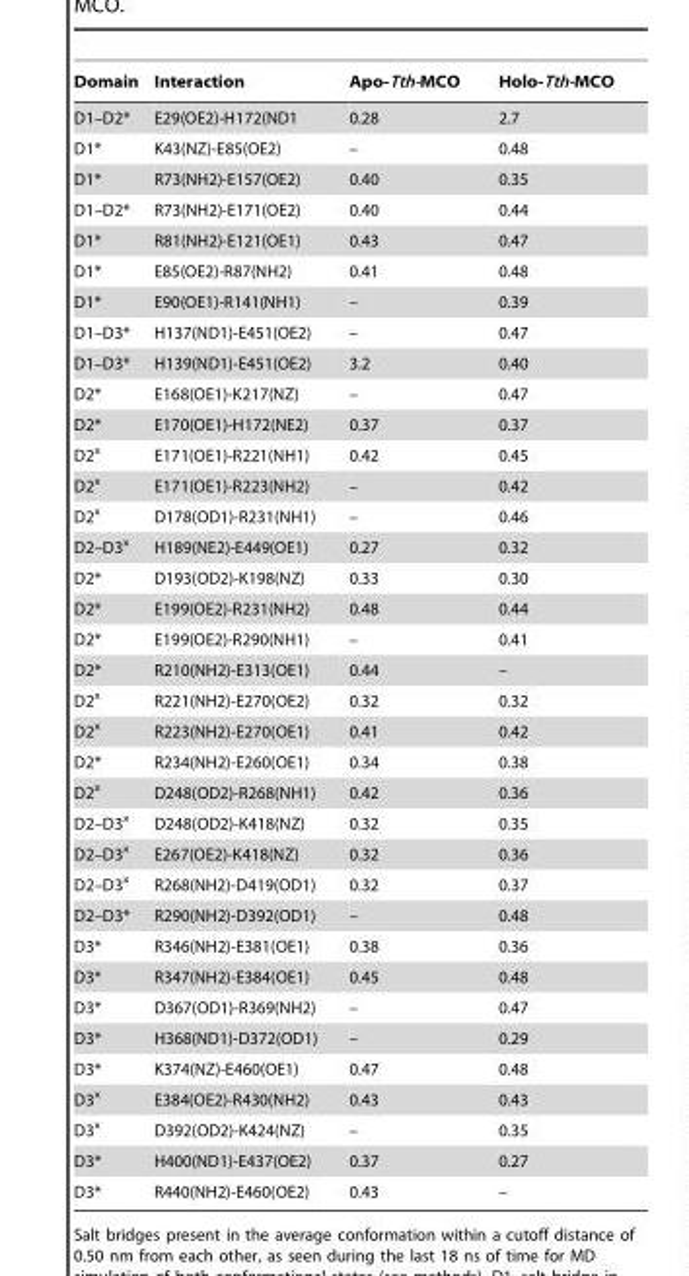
<table><thead><tr><td>Domain</td><td>Interaction</td><td>Apo-Tth-MCO</td><td>Holo-Tth-MCO</td></tr></thead><tbody><tr><td>D1–D2*</td><td>E29(OE2)-H172(ND1</td><td>0.28</td><td>2.7</td></tr><tr><td>D1*</td><td>K43(NZ)-E85(OE2)</td><td>–</td><td>0.48</td></tr><tr><td>D1*</td><td>R73(NH2)-E157(OE2)</td><td>0.40</td><td>0.35</td></tr><tr><td>D1–D2*</td><td>R73(NH2)-E171(OE2)</td><td>0.40</td><td>0.44</td></tr><tr><td>D1*</td><td>R81(NH2)-E121(OE1)</td><td>0.43</td><td>0.47</td></tr><tr><td>D1*</td><td>E85(OE2)-R87(NH2)</td><td>0.41</td><td>0.48</td></tr><tr><td>D1*</td><td>E90(OE1)-R141(NH1)</td><td>–</td><td>0.39</td></tr><tr><td>D1–D3*</td><td>H137(ND1)-E451(OE2)</td><td>–</td><td>0.47</td></tr><tr><td>D1–D3*</td><td>H139(ND1)-E451(OE2)</td><td>3.2</td><td>0.40</td></tr><tr><td>D2*</td><td>E168(OE1)-K217(NZ)</td><td>–</td><td>0.47</td></tr><tr><td>D2*</td><td>E170(OE1)-H172(NE2)</td><td>0.37</td><td>0.37</td></tr><tr><td>D2<sup>x</sup></td><td>E171(OE1)-R221(NH1)</td><td>0.42</td><td>0.45</td></tr><tr><td>D2<sup>x</sup></td><td>E171(OE1)-R223(NH2)</td><td>–</td><td>0.42</td></tr><tr><td>D2<sup>x</sup></td><td>D178(OD1)-R231(NH1)</td><td>–</td><td>0.46</td></tr><tr><td>D2–D3<sup>x</sup></td><td>H189(NE2)-E449(OE1)</td><td>0.27</td><td>0.32</td></tr><tr><td>D2*</td><td>D193(OD2)-K198(NZ)</td><td>0.33</td><td>0.30</td></tr><tr><td>D2*</td><td>E199(OE2)-R231(NH2)</td><td>0.48</td><td>0.44</td></tr><tr><td>D2*</td><td>E199(OE2)-R290(NH1)</td><td>–</td><td>0.41</td></tr><tr><td>D2*</td><td>R210(NH2)-E313(OE1)</td><td>0.44</td><td>–</td></tr><tr><td>D2<sup>x</sup></td><td>R221(NH2)-E270(OE2)</td><td>0.32</td><td>0.32</td></tr><tr><td>D2<sup>x</sup></td><td>R223(NH2)-E270(OE1)</td><td>0.41</td><td>0.42</td></tr><tr><td>D2*</td><td>R234(NH2)-E260(OE1)</td><td>0.34</td><td>0.38</td></tr><tr><td>D2<sup>x</sup></td><td>D248(OD2)-R268(NH1)</td><td>0.42</td><td>0.36</td></tr><tr><td>D2–D3<sup>x</sup></td><td>D248(OD2)-K418(NZ)</td><td>0.32</td><td>0.35</td></tr><tr><td>D2–D3<sup>x</sup></td><td>E267(OE2)-K418(NZ)</td><td>0.32</td><td>0.36</td></tr><tr><td>D2–D3<sup>x</sup></td><td>R268(NH2)-D419(OD1)</td><td>0.32</td><td>0.37</td></tr><tr><td>D2–D3*</td><td>R290(NH2)-D392(OD1)</td><td>–</td><td>0.48</td></tr><tr><td>D3*</td><td>R346(NH2)-E381(OE1)</td><td>0.38</td><td>0.36</td></tr><tr><td>D3*</td><td>R347(NH2)-E384(OE1)</td><td>0.45</td><td>0.48</td></tr><tr><td>D3*</td><td>D367(OD1)-R369(NH2)</td><td>–</td><td>0.47</td></tr><tr><td>D3*</td><td>H368(ND1)-D372(OD1)</td><td>–</td><td>0.29</td></tr><tr><td>D3*</td><td>K374(NZ)-E460(OE1)</td><td>0.47</td><td>0.48</td></tr><tr><td>D3<sup>x</sup></td><td>E384(OE2)-R430(NH2)</td><td>0.43</td><td>0.43</td></tr><tr><td>D3<sup>x</sup></td><td>D392(OD2)-K424(NZ)</td><td>–</td><td>0.35</td></tr><tr><td>D3*</td><td>H400(ND1)-E437(OE2)</td><td>0.37</td><td>0.27</td></tr><tr><td>D3*</td><td>R440(NH2)-E460(OE2)</td><td>0.43</td><td>–</td></tr></tbody></table>